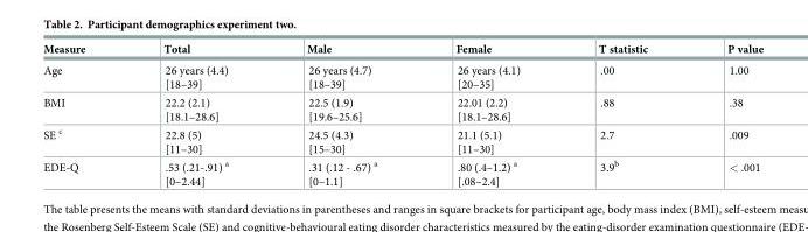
<table><thead><tr><td>Measure</td><td>Total</td><td>Male</td><td>Female</td><td>T statistic</td><td>P value</td></tr></thead><tbody><tr><td>Age</td><td>26 years (4.4) [18–39]</td><td>26 years (4.7) [18–39]</td><td>26 years (4.1) [20–35]</td><td>.00</td><td>1.00</td></tr><tr><td>BMI</td><td>22.2 (2.1) [18.1–28.6]</td><td>22.5 (1.9) [19.6–25.6]</td><td>22.01 (2.2) [18.1–28.6]</td><td>.88</td><td>.38</td></tr><tr><td>SE <sup>c</sup></td><td>22.8 (5) [11–30]</td><td>24.5 (4.3) [15–30]</td><td>21.1 (5.1) [11–30]</td><td>2.7</td><td>.009</td></tr><tr><td>EDE-Q</td><td>.53 (.21-.91) <sup>a</sup> [0–2.44]</td><td>.31 (.12 - .67) <sup>a</sup> [0–1.1]</td><td>.80 (.4–1.2) <sup>a</sup> [.08–2.4]</td><td>3.9<sup>b</sup></td><td>&lt; .001</td></tr></tbody></table>